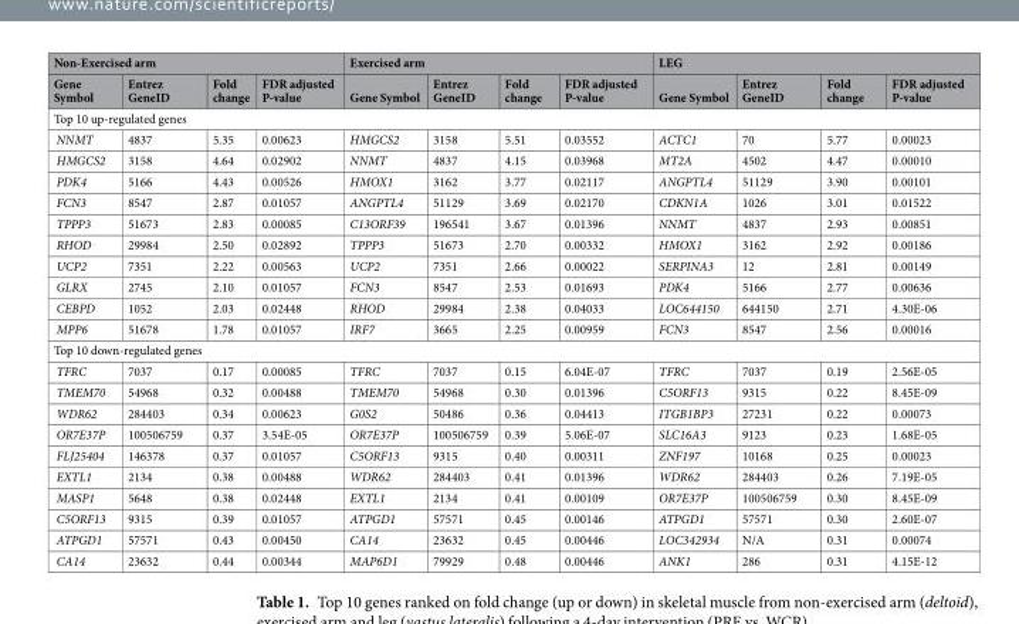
<table><thead><tr><td colspan="4">Non-Exercised arm</td><td colspan="4">Exercised arm</td><td colspan="4">LEG</td></tr><tr><td>Gene Symbol</td><td>Entrez GeneID</td><td>Fold change</td><td>FDR adjusted P-value</td><td>Gene Symbol</td><td>Entrez GeneID</td><td>Fold change</td><td>FDR adjusted P-value</td><td>Gene Symbol</td><td>Entrez GeneID</td><td>Fold change</td><td>FDR adjusted P-value</td></tr></thead><tbody><tr><td colspan="12">Top 10 up-regulated genes</td></tr><tr><td>NNMT</td><td>4837</td><td>5.35</td><td>0.00623</td><td>HMGCS2</td><td>3158</td><td>5.51</td><td>0.03552</td><td>ACTC1</td><td>70</td><td>5.77</td><td>0.00023</td></tr><tr><td>HMGCS2</td><td>3158</td><td>4.64</td><td>0.02902</td><td>NNMT</td><td>4837</td><td>4.15</td><td>0.03968</td><td>MT2A</td><td>4502</td><td>4.47</td><td>0.00010</td></tr><tr><td>PDK4</td><td>5166</td><td>4.43</td><td>0.00526</td><td>HMOX1</td><td>3162</td><td>3.77</td><td>0.02117</td><td>ANGPTL4</td><td>51129</td><td>3.90</td><td>0.00101</td></tr><tr><td>FCN3</td><td>8547</td><td>2.87</td><td>0.01057</td><td>ANGPTL4</td><td>51129</td><td>3.69</td><td>0.02170</td><td>CDKN1A</td><td>1026</td><td>3.01</td><td>0.01522</td></tr><tr><td>TPPP3</td><td>51673</td><td>2.83</td><td>0.00085</td><td>C13ORF39</td><td>196541</td><td>3.67</td><td>0.01396</td><td>NNMT</td><td>4837</td><td>2.93</td><td>0.00851</td></tr><tr><td>RHOD</td><td>29984</td><td>2.50</td><td>0.02892</td><td>TPPP3</td><td>51673</td><td>2.70</td><td>0.00332</td><td>HMOX1</td><td>3162</td><td>2.92</td><td>0.00186</td></tr><tr><td>UCP2</td><td>7351</td><td>2.22</td><td>0.00563</td><td>UCP2</td><td>7351</td><td>2.66</td><td>0.00022</td><td>SERPINA3</td><td>12</td><td>2.81</td><td>0.00149</td></tr><tr><td>GLRX</td><td>2745</td><td>2.10</td><td>0.01057</td><td>FCN3</td><td>8547</td><td>2.53</td><td>0.01693</td><td>PDK4</td><td>5166</td><td>2.77</td><td>0.00636</td></tr><tr><td>CEBPD</td><td>1052</td><td>2.03</td><td>0.02448</td><td>RHOD</td><td>29984</td><td>2.38</td><td>0.04033</td><td>LOC644150</td><td>644150</td><td>2.71</td><td>4.30E-06</td></tr><tr><td>MPP6</td><td>51678</td><td>1.78</td><td>0.01057</td><td>IRF7</td><td>3665</td><td>2.25</td><td>0.00959</td><td>FCN3</td><td>8547</td><td>2.56</td><td>0.00016</td></tr><tr><td colspan="12">Top 10 down-regulated genes</td></tr><tr><td>TFRC</td><td>7037</td><td>0.17</td><td>0.00085</td><td>TFRC</td><td>7037</td><td>0.15</td><td>6.04E-07</td><td>TFRC</td><td>7037</td><td>0.19</td><td>2.56E-05</td></tr><tr><td>TMEM70</td><td>54968</td><td>0.32</td><td>0.00488</td><td>TMEM70</td><td>54968</td><td>0.30</td><td>0.01396</td><td>C5ORF13</td><td>9315</td><td>0.22</td><td>8.45E-09</td></tr><tr><td>WDR62</td><td>284403</td><td>0.34</td><td>0.00623</td><td>G0S2</td><td>50486</td><td>0.36</td><td>0.04413</td><td>ITGB1BP3</td><td>27231</td><td>0.22</td><td>0.00073</td></tr><tr><td>OR7E37P</td><td>100506759</td><td>0.37</td><td>3.54E-05</td><td>OR7E37P</td><td>100506759</td><td>0.39</td><td>5.06E-07</td><td>SLC16A3</td><td>9123</td><td>0.23</td><td>1.68E-05</td></tr><tr><td>FLJ25404</td><td>146378</td><td>0.37</td><td>0.01057</td><td>C5ORF13</td><td>9315</td><td>0.40</td><td>0.00311</td><td>ZNF197</td><td>10168</td><td>0.25</td><td>0.00023</td></tr><tr><td>EXTL1</td><td>2134</td><td>0.38</td><td>0.00488</td><td>WDR62</td><td>284403</td><td>0.41</td><td>0.01396</td><td>WDR62</td><td>284403</td><td>0.26</td><td>7.19E-05</td></tr><tr><td>MASP1</td><td>5648</td><td>0.38</td><td>0.02448</td><td>EXTL1</td><td>2134</td><td>0.41</td><td>0.00109</td><td>OR7E37P</td><td>100506759</td><td>0.30</td><td>8.45E-09</td></tr><tr><td>C5ORF13</td><td>9315</td><td>0.39</td><td>0.01057</td><td>ATPGD1</td><td>57571</td><td>0.45</td><td>0.00146</td><td>ATPGD1</td><td>57571</td><td>0.30</td><td>2.60E-07</td></tr><tr><td>ATPGD1</td><td>57571</td><td>0.43</td><td>0.00450</td><td>CA14</td><td>23632</td><td>0.45</td><td>0.00446</td><td>LOC342934</td><td>N/A</td><td>0.31</td><td>0.00074</td></tr><tr><td>CA14</td><td>23632</td><td>0.44</td><td>0.00344</td><td>MAP6D1</td><td>79929</td><td>0.48</td><td>0.00446</td><td>ANK1</td><td>286</td><td>0.31</td><td>4.15E-12</td></tr></tbody></table>